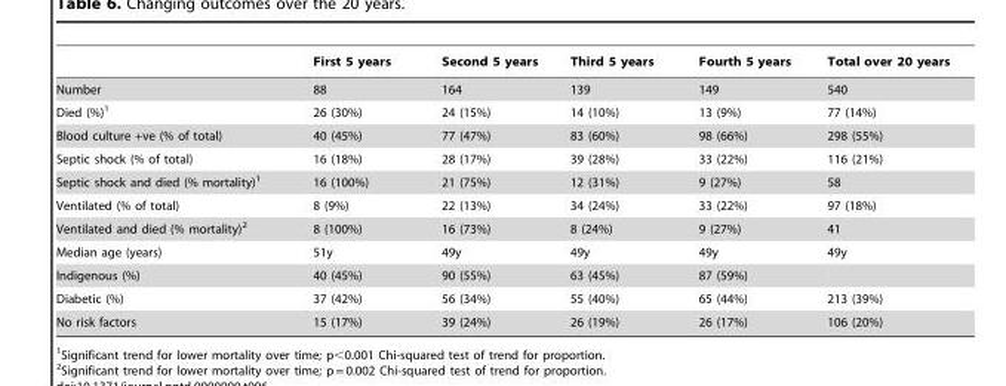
<table><thead><tr><td></td><td>First 5 years</td><td>Second 5 years</td><td>Third 5 years</td><td>Fourth 5 years</td><td>Total over 20 years</td></tr></thead><tbody><tr><td>Number</td><td>88</td><td>164</td><td>139</td><td>149</td><td>540</td></tr><tr><td>Died (%)<sup>1</sup></td><td>26 (30%)</td><td>24 (15%)</td><td>14 (10%)</td><td>13 (9%)</td><td>77 (14%)</td></tr><tr><td>Blood culture +ve (% of total)</td><td>40 (45%)</td><td>77 (47%)</td><td>83 (60%)</td><td>98 (66%)</td><td>298 (55%)</td></tr><tr><td>Septic shock (% of total)</td><td>16 (18%)</td><td>28 (17%)</td><td>39 (28%)</td><td>33 (22%)</td><td>116 (21%)</td></tr><tr><td>Septic shock and died (% mortality)<sup>1</sup></td><td>16 (100%)</td><td>21 (75%)</td><td>12 (31%)</td><td>9 (27%)</td><td>58</td></tr><tr><td>Ventilated (% of total)</td><td>8 (9%)</td><td>22 (13%)</td><td>34 (24%)</td><td>33 (22%)</td><td>97 (18%)</td></tr><tr><td>Ventilated and died (% mortality)<sup>2</sup></td><td>8 (100%)</td><td>16 (73%)</td><td>8 (24%)</td><td>9 (27%)</td><td>41</td></tr><tr><td>Median age (years)</td><td>51y</td><td>49y</td><td>49y</td><td>49y</td><td>49y</td></tr><tr><td>Indigenous (%)</td><td>40 (45%)</td><td>90 (55%)</td><td>63 (45%)</td><td>87 (59%)</td><td></td></tr><tr><td>Diabetic (%)</td><td>37 (42%)</td><td>56 (34%)</td><td>55 (40%)</td><td>65 (44%)</td><td>213 (39%)</td></tr><tr><td>No risk factors</td><td>15 (17%)</td><td>39 (24%)</td><td>26 (19%)</td><td>26 (17%)</td><td>106 (20%)</td></tr></tbody></table>